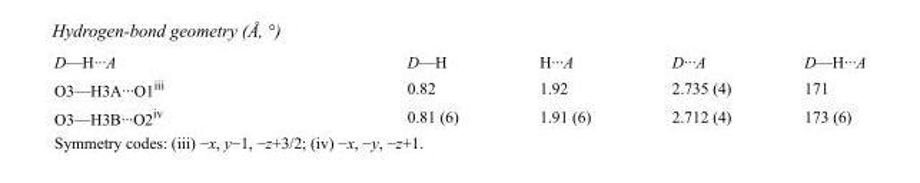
<table><tbody><tr><td>D—H···A</td><td>D—H</td><td>H···A</td><td>D···A</td><td>D—H···A</td></tr><tr><td>O3—H3A···O1<sup>iii</sup></td><td>0.82</td><td>1.92</td><td>2.735 (4)</td><td>171</td></tr><tr><td>O3—H3B···O2<sup>iv</sup></td><td>0.81 (6)</td><td>1.91 (6)</td><td>2.712 (4)</td><td>173 (6)</td></tr></tbody></table>